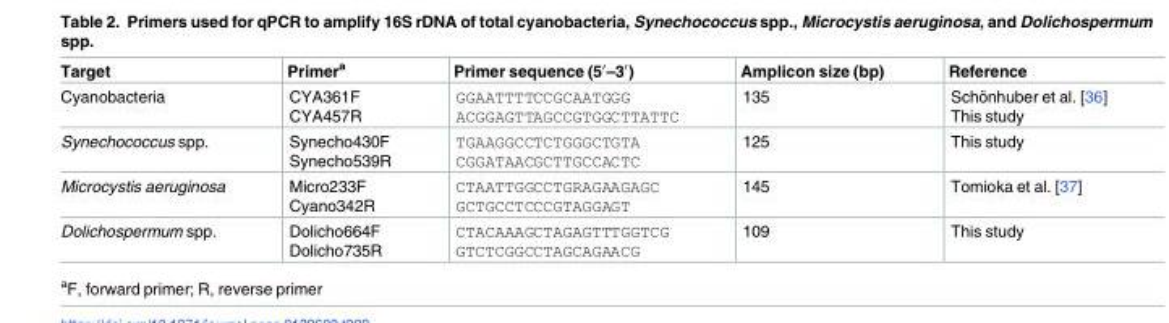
<table><thead><tr><td>Target</td><td>Primer<sup>a</sup></td><td>Primer sequence (5′–3′)</td><td>Amplicon size (bp)</td><td>Reference</td></tr></thead><tbody><tr><td>Cyanobacteria</td><td>CYA361F CYA457R</td><td>GGAATTTTCCGCAATGGG ACGGAGTTAGCCGTGGCTTATTC</td><td>135</td><td>Scho¨nhuber et al. [36] This study</td></tr><tr><td>Synechococcus spp.</td><td>Synecho430F Synecho539R</td><td>TGAAGGCCTCTGGGCTGTA CGGATAACGCTTGCCACTC</td><td>125</td><td>This study</td></tr><tr><td>Microcystis aeruginosa</td><td>Micro233F Cyano342R</td><td>CTAATTGGCCTGRAGAAGAGC GCTGCCTCCCGTAGGAGT</td><td>145</td><td>Tomioka et al. [37]</td></tr><tr><td>Dolichospermum spp.</td><td>Dolicho664F Dolicho735R</td><td>CTACAAAGCTAGAGTTTGGTCG GTCTCGGCCTAGCAGAACG</td><td>109</td><td>This study</td></tr></tbody></table>